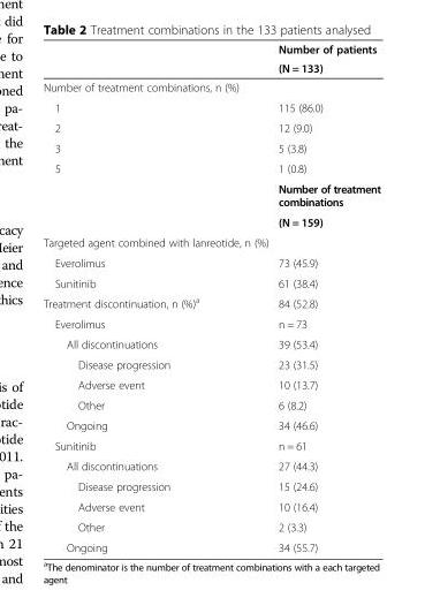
<table><thead><tr><td rowspan="2"></td><td rowspan="2">Number of patients (N = 133)</td></tr><tr></tr></thead><tbody><tr><td colspan="2">Number of treatment combinations, n (%)</td></tr><tr><td>1</td><td>115 (86.0)</td></tr><tr><td>2</td><td>12 (9.0)</td></tr><tr><td>3</td><td>5 (3.8)</td></tr><tr><td rowspan="3">5</td><td>1 (0.8)</td></tr><tr><td>Number of treatment combinations</td></tr><tr><td>(N = 159)</td></tr><tr><td colspan="2">Targeted agent combined with lanreotide, n (%)</td></tr><tr><td>Everolimus</td><td>73 (45.9)</td></tr><tr><td>Sunitinib</td><td>61 (38.4)</td></tr><tr><td>Treatment discontinuation, n (%)<sup>a</sup></td><td>84 (52.8)</td></tr><tr><td>Everolimus</td><td>n = 73</td></tr><tr><td>All discontinuations</td><td>39 (53.4)</td></tr><tr><td>Disease progression</td><td>23 (31.5)</td></tr><tr><td>Adverse event</td><td>10 (13.7)</td></tr><tr><td>Other</td><td>6 (8.2)</td></tr><tr><td>Ongoing</td><td>34 (46.6)</td></tr><tr><td>Sunitinib</td><td>n = 61</td></tr><tr><td>All discontinuations</td><td>27 (44.3)</td></tr><tr><td>Disease progression</td><td>15 (24.6)</td></tr><tr><td>Adverse event</td><td>10 (16.4)</td></tr><tr><td>Other</td><td>2 (3.3)</td></tr><tr><td>Ongoing</td><td>34 (55.7)</td></tr></tbody></table>